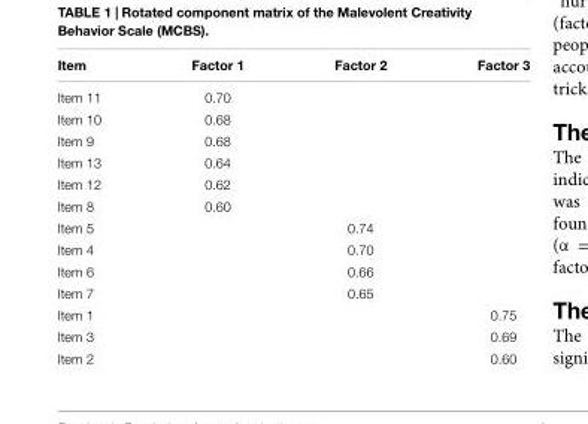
<table><thead><tr><td>Item</td><td>Factor 1</td><td>Factor 2</td><td>Factor 3</td></tr></thead><tbody><tr><td>Item 11</td><td>0.70</td><td></td><td></td></tr><tr><td>Item 10</td><td>0.68</td><td></td><td></td></tr><tr><td>Item 9</td><td>0.68</td><td></td><td></td></tr><tr><td>Item 13</td><td>0.64</td><td></td><td></td></tr><tr><td>Item 12</td><td>0.62</td><td></td><td></td></tr><tr><td>Item 8</td><td>0.60</td><td></td><td></td></tr><tr><td>Item 5</td><td></td><td>0.74</td><td></td></tr><tr><td>Item 4</td><td></td><td>0.70</td><td></td></tr><tr><td>Item 6</td><td></td><td>0.66</td><td></td></tr><tr><td>Item 7</td><td></td><td>0.65</td><td></td></tr><tr><td>Item 1</td><td></td><td></td><td>0.75</td></tr><tr><td>Item 3</td><td></td><td></td><td>0.69</td></tr><tr><td>Item 2</td><td></td><td></td><td>0.60</td></tr></tbody></table>